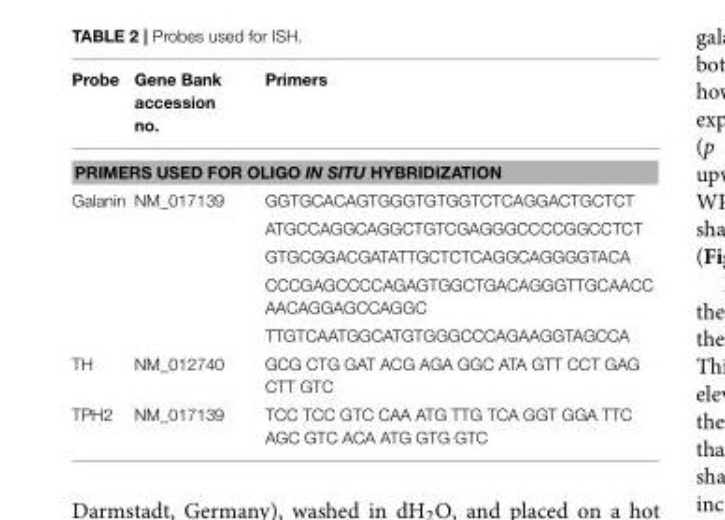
<table><thead><tr><td>Probe</td><td>Gene Bank accession no.</td><td>Primers</td></tr></thead><tbody><tr><td colspan="3">PRIMERS USED FOR OLIGO IN SITU HYBRIDIZATION</td></tr><tr><td rowspan="5">Galanin</td><td>NM_017139</td><td>GGTGCACAGTGGGTGTGGTCTCAGGACTGCTCT</td></tr><tr><td></td><td>ATGCCAGGCAGGCTGTCGAGGGCCCCGGCCTCT</td></tr><tr><td></td><td>GTGCGGACGATATTGCTCTCAGGCAGGGGTACA</td></tr><tr><td></td><td>CCCGAGCCCCAGAGTGGCTGACAGGGTTGCAACC AACAGGAGCCAGGC</td></tr><tr><td></td><td>TTGTCAATGGCATGTGGGCCCAGAAGGTAGCCA</td></tr><tr><td>TH</td><td>NM_012740</td><td>GCG CTG GAT ACG AGA GGC ATA GTT CCT GAG CTT GTC</td></tr><tr><td>TPH2</td><td>NM_017139</td><td>TCC TCC GTC CAA ATG TTG TCA GGT GGA TTC AGC GTC ACA ATG GTG GTC</td></tr></tbody></table>